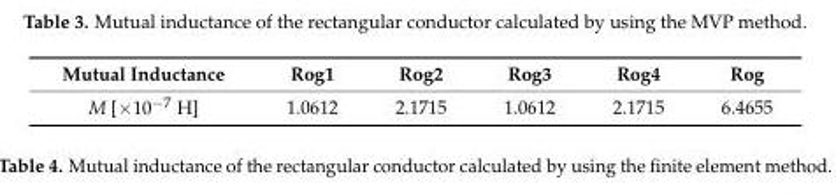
<table><thead><tr><td>Mutual Inductance</td><td>Rog1</td><td>Rog2</td><td>Rog3</td><td>Rog4</td><td>Rog</td></tr></thead><tbody><tr><td>M [×10<sup>−7</sup> H]</td><td>1.0612</td><td>2.1715</td><td>1.0612</td><td>2.1715</td><td>6.4655</td></tr></tbody></table>